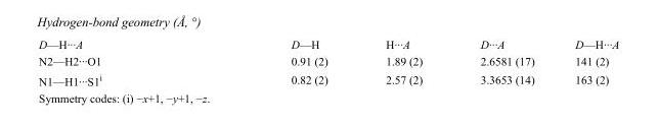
<table><tbody><tr><td>D—H···A</td><td>D—H</td><td>H···A</td><td>D···A</td><td>D—H···A</td></tr><tr><td>N2—H2···O1</td><td>0.91 (2)</td><td>1.89 (2)</td><td>2.6581 (17)</td><td>141 (2)</td></tr><tr><td>N1—H1···S1<sup>i</sup></td><td>0.82 (2)</td><td>2.57 (2)</td><td>3.3653 (14)</td><td>163 (2)</td></tr></tbody></table>